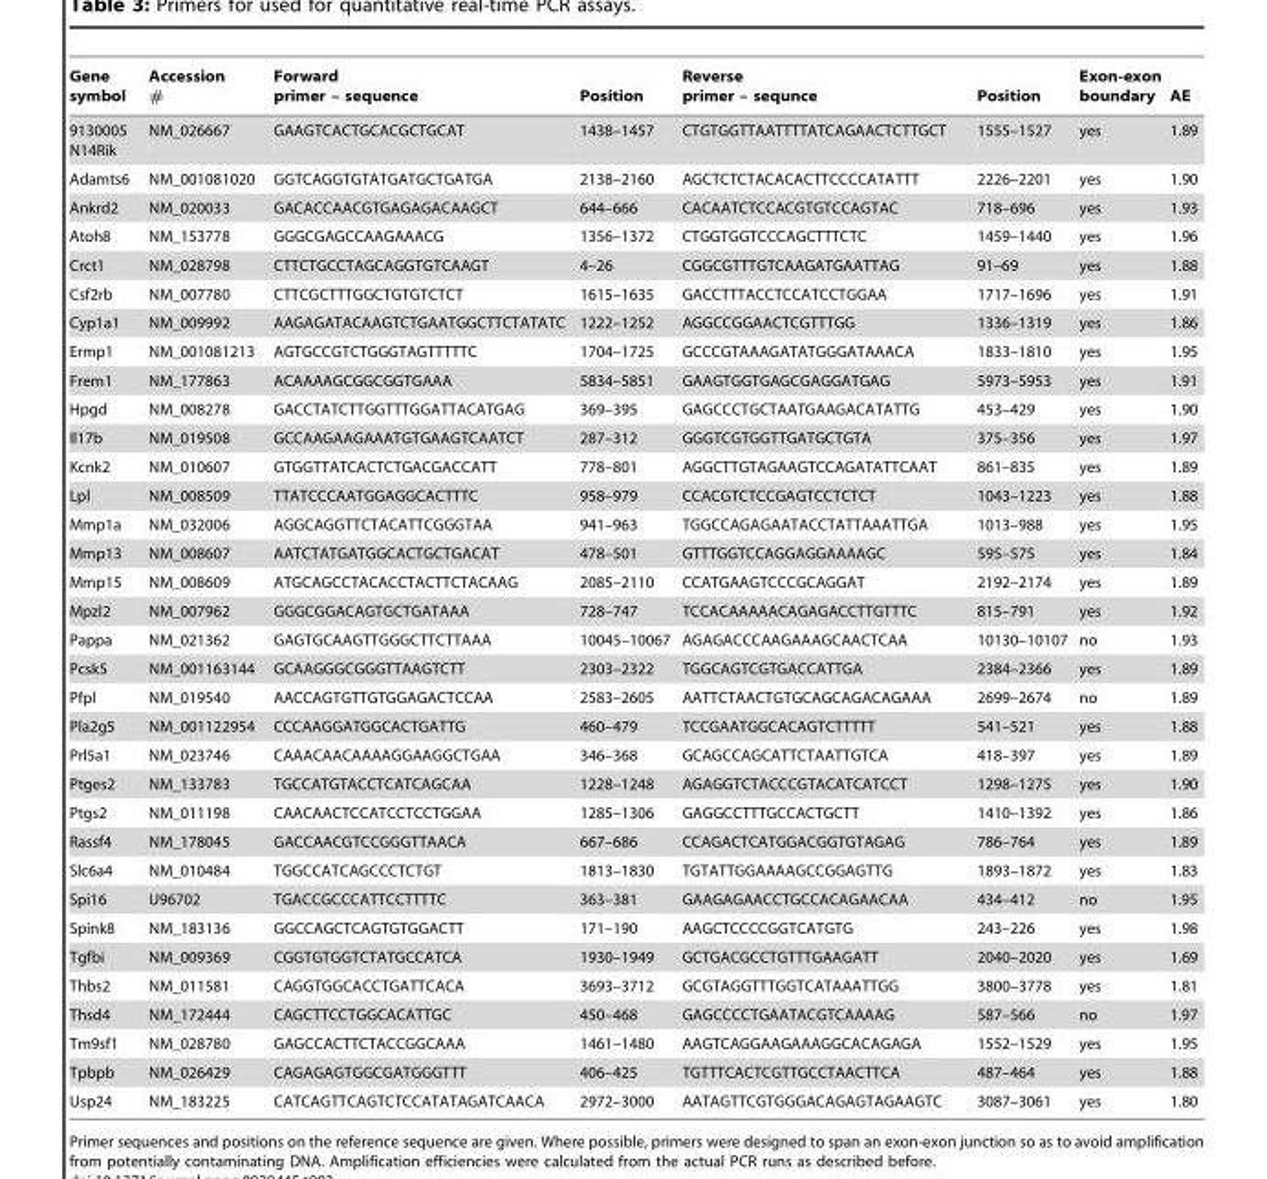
<table><thead><tr><td>Gene symbol</td><td>Accession #</td><td>Forward primer – sequence</td><td>Position</td><td>Reverse primer – sequnce</td><td>Position</td><td>Exon-exon boundary</td><td>AE</td></tr></thead><tbody><tr><td>9130005 N14Rik</td><td>NM_026667</td><td>GAAGTCACTGCACGCTGCAT</td><td>1438–1457</td><td>CTGTGGTTAATTTTATCAGAACTCTTGCT</td><td>1555–1527</td><td>yes</td><td>1.89</td></tr><tr><td>Adamts6</td><td>NM_001081020</td><td>GGTCAGGTGTATGATGCTGATGA</td><td>2138–2160</td><td>AGCTCTCTACACACTTCCCCATATTT</td><td>2226–2201</td><td>yes</td><td>1.90</td></tr><tr><td>Ankrd2</td><td>NM_020033</td><td>GACACCAACGTGAGAGACAAGCT</td><td>644–666</td><td>CACAATCTCCACGTGTCCAGTAC</td><td>718–696</td><td>yes</td><td>1.93</td></tr><tr><td>Atoh8</td><td>NM_153778</td><td>GGGCGAGCCAAGAAACG</td><td>1356–1372</td><td>CTGGTGGTCCCAGCTTTCTC</td><td>1459–1440</td><td>yes</td><td>1.96</td></tr><tr><td>Crct1</td><td>NM_028798</td><td>CTTCTGCCTAGCAGGTGTCAAGT</td><td>4–26</td><td>CGGCGTTTGTCAAGATGAATTAG</td><td>91–69</td><td>yes</td><td>1.88</td></tr><tr><td>Csf2rb</td><td>NM_007780</td><td>CTTCGCTTTGGCTGTGTCTCT</td><td>1615–1635</td><td>GACCTTTACCTCCATCCTGGAA</td><td>1717–1696</td><td>yes</td><td>1.91</td></tr><tr><td>Cyp1a1</td><td>NM_009992</td><td>AAGAGATACAAGTCTGAATGGCTTCTATATC</td><td>1222–1252</td><td>AGGCCGGAACTCGTTTGG</td><td>1336–1319</td><td>yes</td><td>1.86</td></tr><tr><td>Ermp1</td><td>NM_001081213</td><td>AGTGCCGTCTGGGTAGTTTTTC</td><td>1704–1725</td><td>GCCCGTAAAGATATGGGATAAACA</td><td>1833–1810</td><td>yes</td><td>1.95</td></tr><tr><td>Frem1</td><td>NM_177863</td><td>ACAAAAGCGGCGGTGAAA</td><td>5834–5851</td><td>GAAGTGGTGAGCGAGGATGAG</td><td>5973–5953</td><td>yes</td><td>1.91</td></tr><tr><td>Hpgd</td><td>NM_008278</td><td>GACCTATCTTGGTTTGGATTACATGAG</td><td>369–395</td><td>GAGCCCTGCTAATGAAGACATATTG</td><td>453–429</td><td>yes</td><td>1.90</td></tr><tr><td>Il17b</td><td>NM_019508</td><td>GCCAAGAAGAAATGTGAAGTCAATCT</td><td>287–312</td><td>GGGTCGTGGTTGATGCTGTA</td><td>375–356</td><td>yes</td><td>1.97</td></tr><tr><td>Kcnk2</td><td>NM_010607</td><td>GTGGTTATCACTCTGACGACCATT</td><td>778–801</td><td>AGGCTTGTAGAAGTCCAGATATTCAAT</td><td>861–835</td><td>yes</td><td>1.89</td></tr><tr><td>Lpl</td><td>NM_008509</td><td>TTATCCCAATGGAGGCACTTTC</td><td>958–979</td><td>CCACGTCTCCGAGTCCTCTCT</td><td>1043–1223</td><td>yes</td><td>1.88</td></tr><tr><td>Mmp1a</td><td>NM_032006</td><td>AGGCAGGTTCTACATTCGGGTAA</td><td>941–963</td><td>TGGCCAGAGAATACCTATTAAATTGA</td><td>1013–988</td><td>yes</td><td>1.95</td></tr><tr><td>Mmp13</td><td>NM_008607</td><td>AATCTATGATGGCACTGCTGACAT</td><td>478–501</td><td>GTTTGGTCCAGGAGGAAAAGC</td><td>595–575</td><td>yes</td><td>1.84</td></tr><tr><td>Mmp15</td><td>NM_008609</td><td>ATGCAGCCTACACCTACTTCTACAAG</td><td>2085–2110</td><td>CCATGAAGTCCCGCAGGAT</td><td>2192–2174</td><td>yes</td><td>1.89</td></tr><tr><td>Mpzl2</td><td>NM_007962</td><td>GGGCGGACAGTGCTGATAAA</td><td>728–747</td><td>TCCACAAAAACAGAGACCTTGTTTC</td><td>815–791</td><td>yes</td><td>1.92</td></tr><tr><td>Pappa</td><td>NM_021362</td><td>GAGTGCAAGTTGGGCTTCTTAAA</td><td>10045–10067</td><td>AGAGACCCAAGAAAGCAACTCAA</td><td>10130–10107</td><td>no</td><td>1.93</td></tr><tr><td>Pcsk5</td><td>NM_001163144</td><td>GCAAGGGCGGGTTAAGTCTT</td><td>2303–2322</td><td>TGGCAGTCGTGACCATTGA</td><td>2384–2366</td><td>yes</td><td>1.89</td></tr><tr><td>Pfpl</td><td>NM_019540</td><td>AACCAGTGTTGTGGAGACTCCAA</td><td>2583–2605</td><td>AATTCTAACTGTGCAGCAGACAGAAA</td><td>2699–2674</td><td>no</td><td>1.89</td></tr><tr><td>Pla2g5</td><td>NM_001122954</td><td>CCCAAGGATGGCACTGATTG</td><td>460–479</td><td>TCCGAATGGCACAGTCTTTTT</td><td>541–521</td><td>yes</td><td>1.88</td></tr><tr><td>Prl5a1</td><td>NM_023746</td><td>CAAACAACAAAAGGAAGGCTGAA</td><td>346–368</td><td>GCAGCCAGCATTCTAATTGTCA</td><td>418–397</td><td>yes</td><td>1.89</td></tr><tr><td>Ptges2</td><td>NM_133783</td><td>TGCCATGTACCTCATCAGCAA</td><td>1228–1248</td><td>AGAGGTCTACCCGTACATCATCCT</td><td>1298–1275</td><td>yes</td><td>1.90</td></tr><tr><td>Ptgs2</td><td>NM_011198</td><td>CAACAACTCCATCCTCCTGGAA</td><td>1285–1306</td><td>GAGGCCTTTGCCACTGCTT</td><td>1410–1392</td><td>yes</td><td>1.86</td></tr><tr><td>Rassf4</td><td>NM_178045</td><td>GACCAACGTCCGGGTTAACA</td><td>667–686</td><td>CCAGACTCATGGACGGTGTAGAG</td><td>786–764</td><td>yes</td><td>1.89</td></tr><tr><td>Slc6a4</td><td>NM_010484</td><td>TGGCCATCAGCCCTCTGT</td><td>1813–1830</td><td>TGTATTGGAAAAGCCGGAGTTG</td><td>1893–1872</td><td>yes</td><td>1.83</td></tr><tr><td>Spi16</td><td>U96702</td><td>TGACCGCCCATTCCTTTTC</td><td>363–381</td><td>GAAGAGAACCTGCCACAGAACAA</td><td>434–412</td><td>no</td><td>1.95</td></tr><tr><td>Spink8</td><td>NM_183136</td><td>GGCCAGCTCAGTGTGGACTT</td><td>171–190</td><td>AAGCTCCCCGGTCATGTG</td><td>243–226</td><td>yes</td><td>1.98</td></tr><tr><td>Tgfbi</td><td>NM_009369</td><td>CGGTGTGGTCTATGCCATCA</td><td>1930–1949</td><td>GCTGACGCCTGTTTGAAGATT</td><td>2040–2020</td><td>yes</td><td>1.69</td></tr><tr><td>Thbs2</td><td>NM_011581</td><td>CAGGTGGCACCTGATTCACA</td><td>3693–3712</td><td>GCGTAGGTTTGGTCATAAATTGG</td><td>3800–3778</td><td>yes</td><td>1.81</td></tr><tr><td>Thsd4</td><td>NM_172444</td><td>CAGCTTCCTGGCACATTGC</td><td>450–468</td><td>GAGCCCCTGAATACGTCAAAAG</td><td>587–566</td><td>no</td><td>1.97</td></tr><tr><td>Tm9sf1</td><td>NM_028780</td><td>GAGCCACTTCTACCGGCAAA</td><td>1461–1480</td><td>AAGTCAGGAAGAAAGGCACAGAGA</td><td>1552–1529</td><td>yes</td><td>1.95</td></tr><tr><td>Tpbpb</td><td>NM_026429</td><td>CAGAGAGTGGCGATGGGTTT</td><td>406–425</td><td>TGTTTCACTCGTTGCCTAACTTCA</td><td>487–464</td><td>yes</td><td>1.88</td></tr><tr><td>Usp24</td><td>NM_183225</td><td>CATCAGTTCAGTCTCCATATAGATCAACA</td><td>2972–3000</td><td>AATAGTTCGTGGGACAGAGTAGAAGTC</td><td>3087–3061</td><td>yes</td><td>1.80</td></tr></tbody></table>